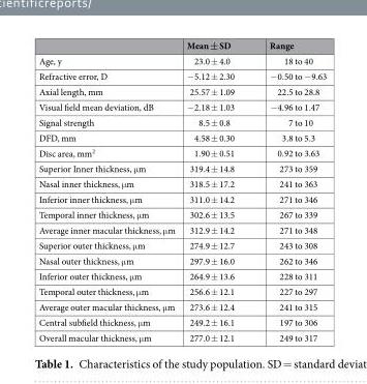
<table><thead><tr><td></td><td>Mean ± SD</td><td>Range</td></tr></thead><tbody><tr><td>Age, y</td><td>23.0 ± 4.0</td><td>18 to 40</td></tr><tr><td>Refractive error, D</td><td>−5.12 ± 2.30</td><td>−0.50 to −9.63</td></tr><tr><td>Axial length, mm</td><td>25.57 ± 1.09</td><td>22.5 to 28.8</td></tr><tr><td>Visual field mean deviation, dB</td><td>−2.18 ± 1.03</td><td>−4.96 to 1.47</td></tr><tr><td>Signal strength</td><td>8.5 ± 0.8</td><td>7 to 10</td></tr><tr><td>DFD, mm</td><td>4.58 ± 0.30</td><td>3.8 to 5.3</td></tr><tr><td>Disc area, mm<sup>2</sup></td><td>1.90 ± 0.51</td><td>0.92 to 3.63</td></tr><tr><td>Superior Inner thickness, μm</td><td>319.4 ± 14.8</td><td>273 to 359</td></tr><tr><td>Nasal inner thickness, μm</td><td>318.5 ± 17.2</td><td>241 to 363</td></tr><tr><td>Inferior inner thickness, μm</td><td>311.0 ± 14.2</td><td>271 to 346</td></tr><tr><td>Temporal inner thickness, μm</td><td>302.6 ± 13.5</td><td>267 to 339</td></tr><tr><td>Average inner macular thickness, μm</td><td>312.9 ± 14.2</td><td>271 to 348</td></tr><tr><td>Superior outer thickness, μm</td><td>274.9 ± 12.7</td><td>243 to 308</td></tr><tr><td>Nasal outer thickness, μm</td><td>297.9 ± 16.0</td><td>262 to 346</td></tr><tr><td>Inferior outer thickness, μm</td><td>264.9 ± 13.6</td><td>228 to 311</td></tr><tr><td>Temporal outer thickness, μm</td><td>256.6 ± 12.1</td><td>227 to 297</td></tr><tr><td>Average outer macular thickness, μm</td><td>273.6 ± 12.4</td><td>241 to 315</td></tr><tr><td>Central subfield thickness, μm</td><td>249.2 ± 16.1</td><td>197 to 306</td></tr><tr><td>Overall macular thickness, μm</td><td>277.0 ± 12.1</td><td>249 to 317</td></tr></tbody></table>